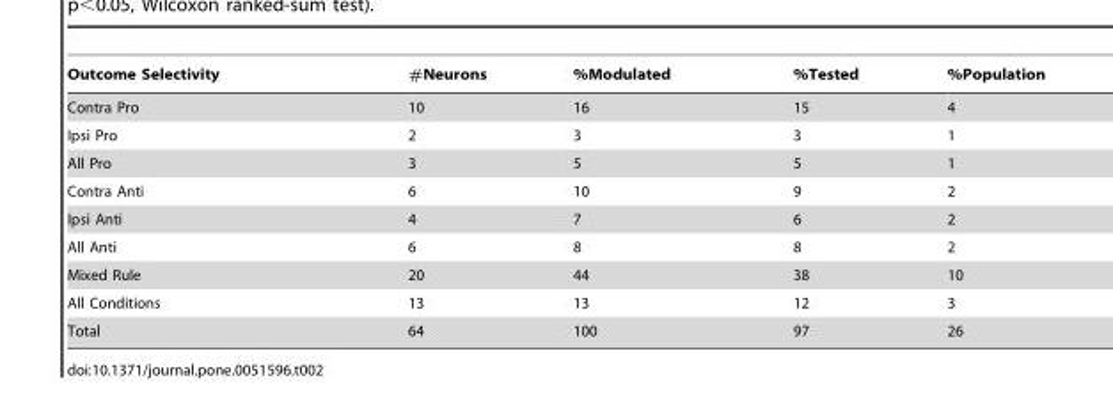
<table><thead><tr><td>Outcome Selectivity</td><td>#Neurons</td><td>%Modulated</td><td>%Tested</td><td>%Population</td></tr></thead><tbody><tr><td>Contra Pro</td><td>10</td><td>16</td><td>15</td><td>4</td></tr><tr><td>Ipsi Pro</td><td>2</td><td>3</td><td>3</td><td>1</td></tr><tr><td>All Pro</td><td>3</td><td>5</td><td>5</td><td>1</td></tr><tr><td>Contra Anti</td><td>6</td><td>10</td><td>9</td><td>2</td></tr><tr><td>Ipsi Anti</td><td>4</td><td>7</td><td>6</td><td>2</td></tr><tr><td>All Anti</td><td>6</td><td>8</td><td>8</td><td>2</td></tr><tr><td>Mixed Rule</td><td>20</td><td>44</td><td>38</td><td>10</td></tr><tr><td>All Conditions</td><td>13</td><td>13</td><td>12</td><td>3</td></tr><tr><td>Total</td><td>64</td><td>100</td><td>97</td><td>26</td></tr></tbody></table>